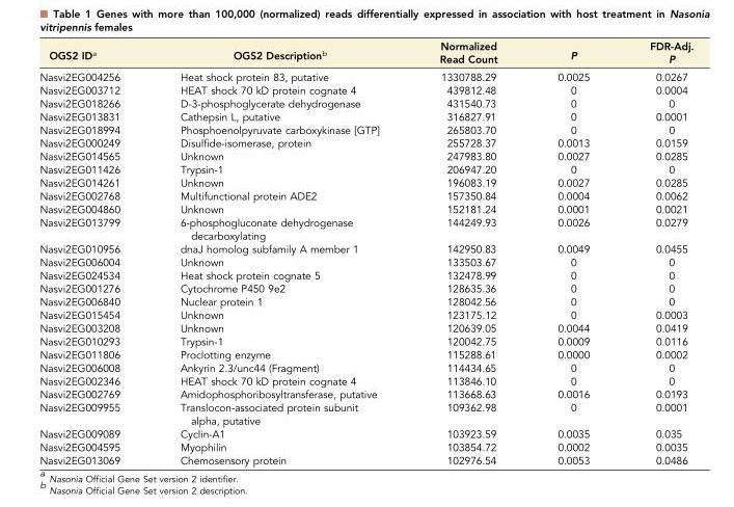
<table><thead><tr><td>OGS2 ID<sup>a</sup></td><td>OGS2 Description<sup>b</sup></td><td>Normalized Read Count</td><td>P</td><td>FDR-Adj. P</td></tr></thead><tbody><tr><td>Nasvi2EG004256</td><td>Heat shock protein 83, putative</td><td>1330788.29</td><td>0.0025</td><td>0.0267</td></tr><tr><td>Nasvi2EG003712</td><td>HEAT shock 70 kD protein cognate 4</td><td>439812.48</td><td>0</td><td>0.0004</td></tr><tr><td>Nasvi2EG018266</td><td>D-3-phosphoglycerate dehydrogenase</td><td>431540.73</td><td>0</td><td>0</td></tr><tr><td>Nasvi2EG013831</td><td>Cathepsin L, putative</td><td>316827.91</td><td>0</td><td>0.0001</td></tr><tr><td>Nasvi2EG018994</td><td>Phosphoenolpyruvate carboxykinase [GTP]</td><td>265803.70</td><td>0</td><td>0</td></tr><tr><td>Nasvi2EG000249</td><td>Disulfide-isomerase, protein</td><td>255728.37</td><td>0.0013</td><td>0.0159</td></tr><tr><td>Nasvi2EG014565</td><td>Unknown</td><td>247983.80</td><td>0.0027</td><td>0.0285</td></tr><tr><td>Nasvi2EG011426</td><td>Trypsin-1</td><td>206947.20</td><td>0</td><td>0</td></tr><tr><td>Nasvi2EG014261</td><td>Unknown</td><td>196083.19</td><td>0.0027</td><td>0.0285</td></tr><tr><td>Nasvi2EG002768</td><td>Multifunctional protein ADE2</td><td>157350.84</td><td>0.0004</td><td>0.0062</td></tr><tr><td>Nasvi2EG004860</td><td>Unknown</td><td>152181.24</td><td>0.0001</td><td>0.0021</td></tr><tr><td>Nasvi2EG013799</td><td>6-phosphogluconate dehydrogenase decarboxylating</td><td>144249.93</td><td>0.0026</td><td>0.0279</td></tr><tr><td>Nasvi2EG010956</td><td>dnaJ homolog subfamily A member 1</td><td>142950.83</td><td>0.0049</td><td>0.0455</td></tr><tr><td>Nasvi2EG006004</td><td>Unknown</td><td>133503.67</td><td>0</td><td>0</td></tr><tr><td>Nasvi2EG024534</td><td>Heat shock protein cognate 5</td><td>132478.99</td><td>0</td><td>0</td></tr><tr><td>Nasvi2EG001276</td><td>Cytochrome P450 9e2</td><td>128635.36</td><td>0</td><td>0</td></tr><tr><td>Nasvi2EG006840</td><td>Nuclear protein 1</td><td>128042.56</td><td>0</td><td>0</td></tr><tr><td>Nasvi2EG015454</td><td>Unknown</td><td>123175.12</td><td>0</td><td>0.0003</td></tr><tr><td>Nasvi2EG003208</td><td>Unknown</td><td>120639.05</td><td>0.0044</td><td>0.0419</td></tr><tr><td>Nasvi2EG010293</td><td>Trypsin-1</td><td>120042.75</td><td>0.0009</td><td>0.0116</td></tr><tr><td>Nasvi2EG011806</td><td>Proclotting enzyme</td><td>115288.61</td><td>0.0000</td><td>0.0002</td></tr><tr><td>Nasvi2EG006008</td><td>Ankyrin 2.3/unc44 (Fragment)</td><td>114434.65</td><td>0</td><td>0</td></tr><tr><td>Nasvi2EG002346</td><td>HEAT shock 70 kD protein cognate 4</td><td>113846.10</td><td>0</td><td>0</td></tr><tr><td>Nasvi2EG002769</td><td>Amidophosphoribosyltransferase, putative</td><td>113668.63</td><td>0.0016</td><td>0.0193</td></tr><tr><td>Nasvi2EG009955</td><td>Translocon-associated protein subunit alpha, putative</td><td>109362.98</td><td>0</td><td>0.0001</td></tr><tr><td>Nasvi2EG009089</td><td>Cyclin-A1</td><td>103923.59</td><td>0.0035</td><td>0.035</td></tr><tr><td>Nasvi2EG004595</td><td>Myophilin</td><td>103854.72</td><td>0.0002</td><td>0.0035</td></tr><tr><td>Nasvi2EG013069</td><td>Chemosensory protein</td><td>102976.54</td><td>0.0053</td><td>0.0486</td></tr></tbody></table>